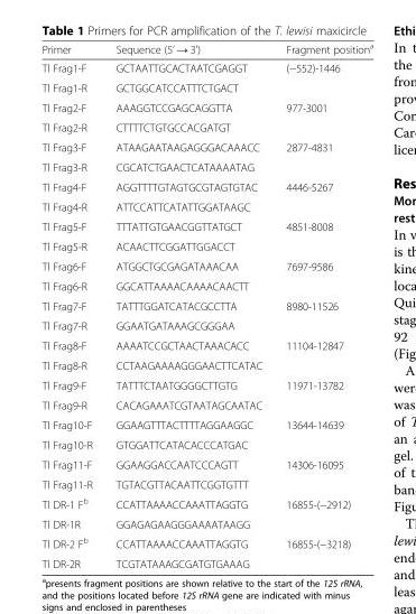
<table><thead><tr><td>Primer</td><td>Sequence (5’ → 3’)</td><td>Fragment position<sup>a</sup></td></tr></thead><tbody><tr><td>Tl Frag1-F</td><td>GCTAATTGCACTAATCGAGGT</td><td rowspan="2">(−552)-1446</td></tr><tr><td>Tl Frag1-R</td><td>GCTGGCATCCATTTCTGACT</td></tr><tr><td>Tl Frag2-F</td><td>AAAGGTCCGAGCAGGTTA</td><td rowspan="2">977-3001</td></tr><tr><td>Tl Frag2-R</td><td>CTTTTCTGTGCCACGATGT</td></tr><tr><td>Tl Frag3-F</td><td>ATAAGAATAAGAGGGACAAACC</td><td rowspan="2">2877-4831</td></tr><tr><td>Tl Frag3-R</td><td>CGCATCTGAACTCATAAAATAG</td></tr><tr><td>Tl Frag4-F</td><td>AGGTTTTGTAGTGCGTAGTGTAC</td><td rowspan="2">4446-5267</td></tr><tr><td>Tl Frag4-R</td><td>ATTCCATTCATATTGGATAAGC</td></tr><tr><td>Tl Frag5-F</td><td>TTTATTGTGAACGGTTATGCT</td><td rowspan="2">4851-8008</td></tr><tr><td>Tl Frag5-R</td><td>ACAACTTCGGATTGGACCT</td></tr><tr><td>Tl Frag6-F</td><td>ATGGCTGCGAGATAAACAA</td><td rowspan="2">7697-9586</td></tr><tr><td>Tl Frag6-R</td><td>GGCATTAAAACAAAACAACTT</td></tr><tr><td>Tl Frag7-F</td><td>TATTTGGATCATACGCCTTA</td><td rowspan="2">8980-11526</td></tr><tr><td>Tl Frag7-R</td><td>GGAATGATAAAGCGGGAA</td></tr><tr><td>Tl Frag8-F</td><td>AAAATCCGCTAACTAAACACC</td><td rowspan="2">11104-12847</td></tr><tr><td>Tl Frag8-R</td><td>CCTAAGAAAAGGGAACTTCATAC</td></tr><tr><td>Tl Frag9-F</td><td>TATTTCTAATGGGGCTTGTG</td><td rowspan="2">11971-13782</td></tr><tr><td>Tl Frag9-R</td><td>CACAGAAATCGTAATAGCAATAC</td></tr><tr><td>Tl Frag10-F</td><td>GGAAGTTTACTTTTAGGAAGGC</td><td rowspan="2">13644-14639</td></tr><tr><td>Tl Frag10-R</td><td>GTGGATTCATACACCCATGAC</td></tr><tr><td>Tl Frag11-F</td><td>GGAAGGACCAATCCCAGTT</td><td rowspan="2">14306-16095</td></tr><tr><td>Tl Frag11-R</td><td>TGTACGTTACAATTCGGTGTTT</td></tr><tr><td>Tl DR-1 F<sup>b</sup></td><td>CCATTAAAACCAAATTAGGTG</td><td rowspan="2">16855-(−2912)</td></tr><tr><td>Tl DR-1R</td><td>GGAGAGAAGGGAAAATAAGG</td></tr><tr><td>Tl DR-2 F<sup>b</sup></td><td>CCATTAAAACCAAATTAGGTG</td><td rowspan="2">16855-(−3218)</td></tr><tr><td>Tl DR-2R</td><td>TCGTATAAAGCGATGTGAAAG</td></tr></tbody></table>